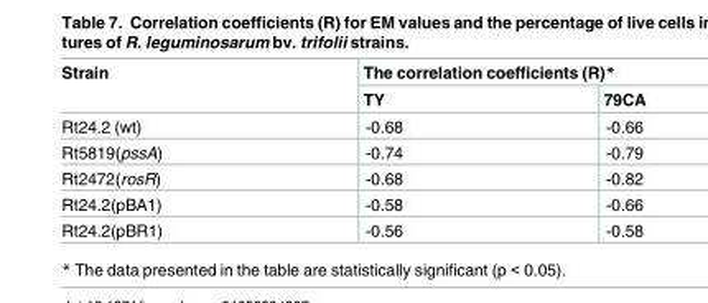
<table><thead><tr><td rowspan="2">Strain</td><td colspan="2">The correlation coefficients (R)*</td></tr><tr><td>TY</td><td>79CA</td></tr></thead><tbody><tr><td>Rt24.2 (wt)</td><td>-0.68</td><td>-0.66</td></tr><tr><td>Rt5819(pssA)</td><td>-0.74</td><td>-0.79</td></tr><tr><td>Rt2472(rosR)</td><td>-0.68</td><td>-0.82</td></tr><tr><td>Rt24.2(pBA1)</td><td>-0.58</td><td>-0.66</td></tr><tr><td>Rt24.2(pBR1)</td><td>-0.56</td><td>-0.58</td></tr></tbody></table>